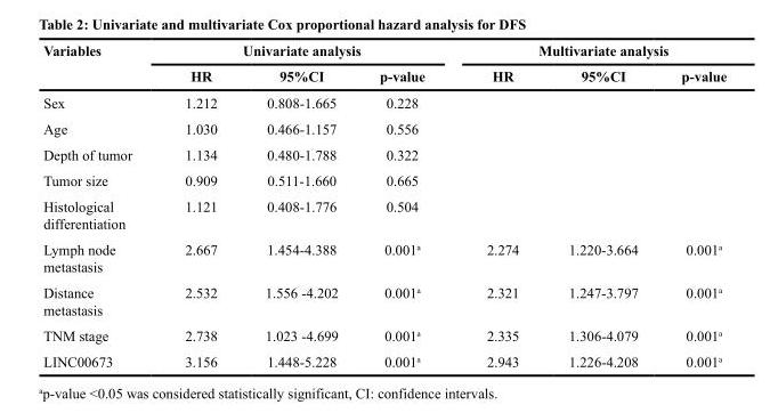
<table><thead><tr><td rowspan="2">Variables</td><td colspan="3">Univariate analysis</td><td colspan="3">Multivariate analysis</td></tr><tr><td>HR</td><td>95%CI</td><td>p-value</td><td>HR</td><td>95%CI</td><td>p-value</td></tr></thead><tbody><tr><td>Sex</td><td>1.212</td><td>0.808-1.665</td><td>0.228</td><td></td><td></td><td></td></tr><tr><td>Age</td><td>1.030</td><td>0.466-1.157</td><td>0.556</td><td></td><td></td><td></td></tr><tr><td>Depth of tumor</td><td>1.134</td><td>0.480-1.788</td><td>0.322</td><td></td><td></td><td></td></tr><tr><td>Tumor size</td><td>0.909</td><td>0.511-1.660</td><td>0.665</td><td></td><td></td><td></td></tr><tr><td>Histological differentiation</td><td>1.121</td><td>0.408-1.776</td><td>0.504</td><td></td><td></td><td></td></tr><tr><td>Lymph node metastasis</td><td>2.667</td><td>1.454-4.388</td><td>0.001<sup>a</sup></td><td>2.274</td><td>1.220-3.664</td><td>0.001<sup>a</sup></td></tr><tr><td>Distance metastasis</td><td>2.532</td><td>1.556 -4.202</td><td>0.001<sup>a</sup></td><td>2.321</td><td>1.247-3.797</td><td>0.001<sup>a</sup></td></tr><tr><td>TNM stage</td><td>2.738</td><td>1.023 -4.699</td><td>0.001<sup>a</sup></td><td>2.335</td><td>1.306-4.079</td><td>0.001<sup>a</sup></td></tr><tr><td>LINC00673</td><td>3.156</td><td>1.448-5.228</td><td>0.001<sup>a</sup></td><td>2.943</td><td>1.226-4.208</td><td>0.001<sup>a</sup></td></tr></tbody></table>